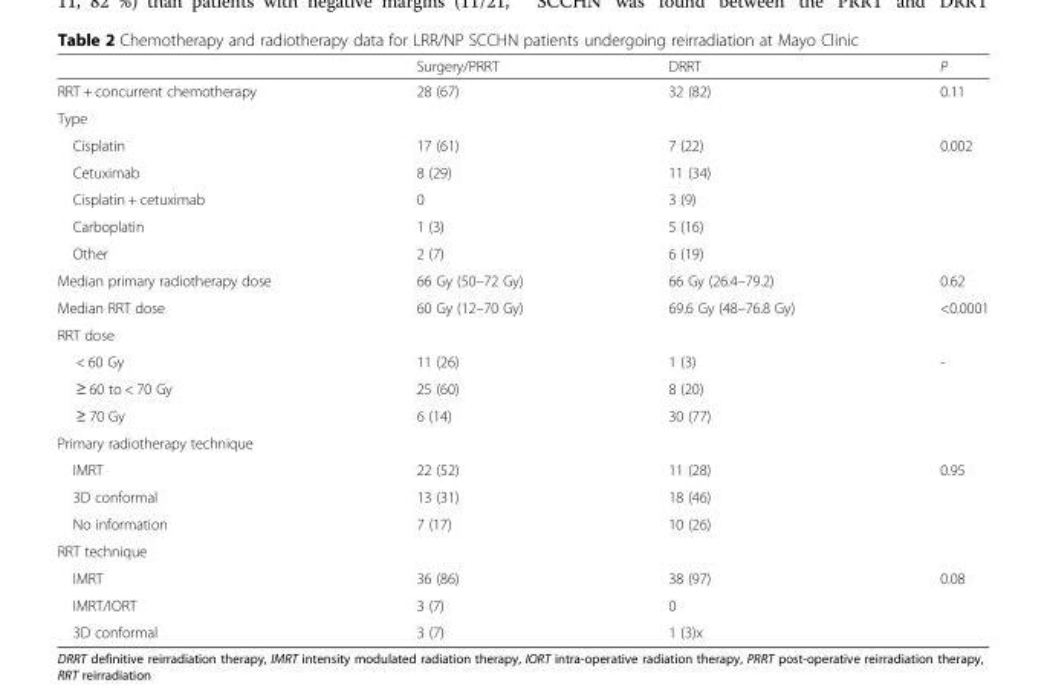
<table><thead><tr><td></td><td>Surgery/PRRT</td><td>DRRT</td><td>P</td></tr></thead><tbody><tr><td>RRT + concurrent chemotherapy</td><td>28 (67)</td><td>32 (82)</td><td>0.11</td></tr><tr><td colspan="4">Type</td></tr><tr><td>Cisplatin</td><td>17 (61)</td><td>7 (22)</td><td rowspan="5">0.002</td></tr><tr><td>Cetuximab</td><td>8 (29)</td><td>11 (34)</td></tr><tr><td>Cisplatin + cetuximab</td><td>0</td><td>3 (9)</td></tr><tr><td>Carboplatin</td><td>1 (3)</td><td>5 (16)</td></tr><tr><td>Other</td><td>2 (7)</td><td>6 (19)</td></tr><tr><td>Median primary radiotherapy dose</td><td>66 Gy (50–72 Gy)</td><td>66 Gy (26.4–79.2)</td><td>0.62</td></tr><tr><td>Median RRT dose</td><td>60 Gy (12–70 Gy)</td><td>69.6 Gy (48–76.8 Gy)</td><td>&lt;0.0001</td></tr><tr><td colspan="4">RRT dose</td></tr><tr><td>&lt; 60 Gy</td><td>11 (26)</td><td>1 (3)</td><td rowspan="3">-</td></tr><tr><td>≥ 60 to &lt; 70 Gy</td><td>25 (60)</td><td>8 (20)</td></tr><tr><td>≥ 70 Gy</td><td>6 (14)</td><td>30 (77)</td></tr><tr><td colspan="4">Primary radiotherapy technique</td></tr><tr><td>IMRT</td><td>22 (52)</td><td>11 (28)</td><td rowspan="3">0.95</td></tr><tr><td>3D conformal</td><td>13 (31)</td><td>18 (46)</td></tr><tr><td>No information</td><td>7 (17)</td><td>10 (26)</td></tr><tr><td colspan="4">RRT technique</td></tr><tr><td>IMRT</td><td>36 (86)</td><td>38 (97)</td><td rowspan="3">0.08</td></tr><tr><td>IMRT/IORT</td><td>3 (7)</td><td>0</td></tr><tr><td>3D conformal</td><td>3 (7)</td><td>1 (3)x</td></tr></tbody></table>